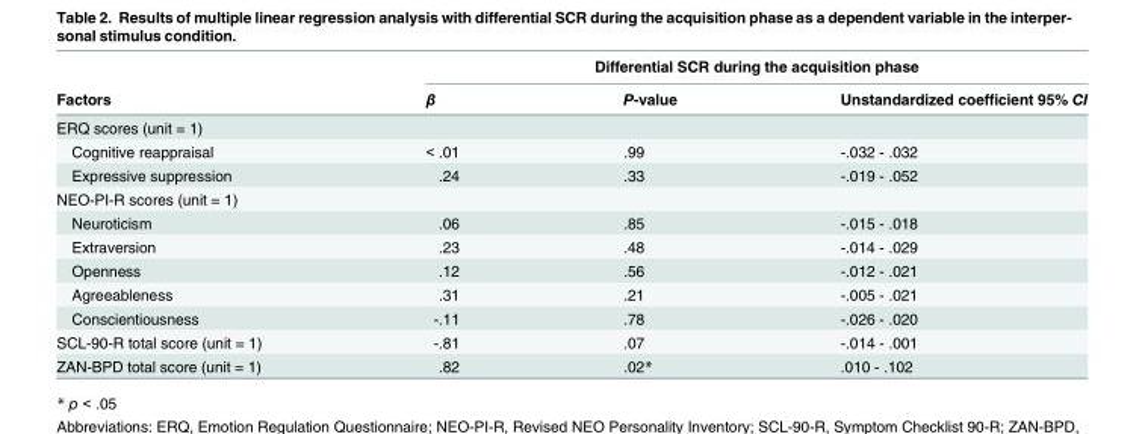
<table><thead><tr><td rowspan="2">Factors</td><td colspan="3">Differential SCR during the acquisition phase</td></tr><tr><td>β</td><td>P-value</td><td>Unstandardized coefficient 95% CI</td></tr></thead><tbody><tr><td colspan="4">ERQ scores (unit = 1)</td></tr><tr><td>Cognitive reappraisal</td><td>&lt; .01</td><td>.99</td><td>-.032 - .032</td></tr><tr><td>Expressive suppression</td><td>.24</td><td>.33</td><td>-.019 - .052</td></tr><tr><td colspan="4">NEO-PI-R scores (unit = 1)</td></tr><tr><td>Neuroticism</td><td>.06</td><td>.85</td><td>-.015 - .018</td></tr><tr><td>Extraversion</td><td>.23</td><td>.48</td><td>-.014 - .029</td></tr><tr><td>Openness</td><td>.12</td><td>.56</td><td>-.012 - .021</td></tr><tr><td>Agreeableness</td><td>.31</td><td>.21</td><td>-.005 - .021</td></tr><tr><td>Conscientiousness</td><td>-.11</td><td>.78</td><td>-.026 - .020</td></tr><tr><td>SCL-90-R total score (unit = 1)</td><td>-.81</td><td>.07</td><td>-.014 - .001</td></tr><tr><td>ZAN-BPD total score (unit = 1)</td><td>.82</td><td>.02*</td><td>.010 - .102</td></tr></tbody></table>